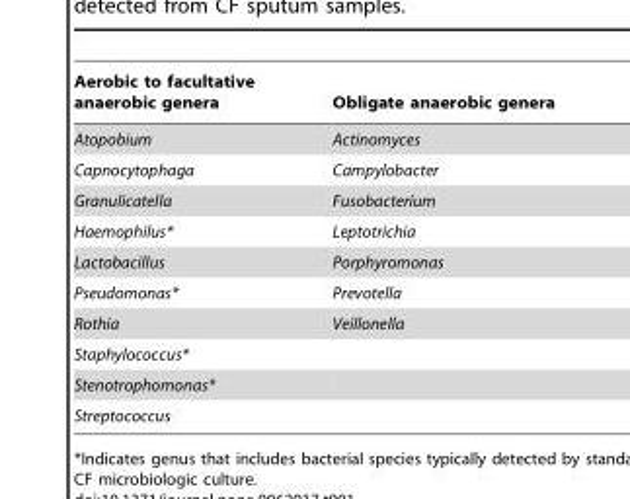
<table><thead><tr><td>Aerobic to facultative anaerobic genera</td><td>Obligate anaerobic genera</td></tr></thead><tbody><tr><td>Atopobium</td><td>Actinomyces</td></tr><tr><td>Capnocytophaga</td><td>Campylobacter</td></tr><tr><td>Granulicatella</td><td>Fusobacterium</td></tr><tr><td>Haemophilus*</td><td>Leptotrichia</td></tr><tr><td>Lactobacillus</td><td>Porphyromonas</td></tr><tr><td>Pseudomonas*</td><td>Prevotella</td></tr><tr><td>Rothia</td><td>Veillonella</td></tr><tr><td colspan="2">Staphylococcus*</td></tr><tr><td colspan="2">Stenotrophomonas*</td></tr><tr><td>Streptococcus</td><td></td></tr></tbody></table>